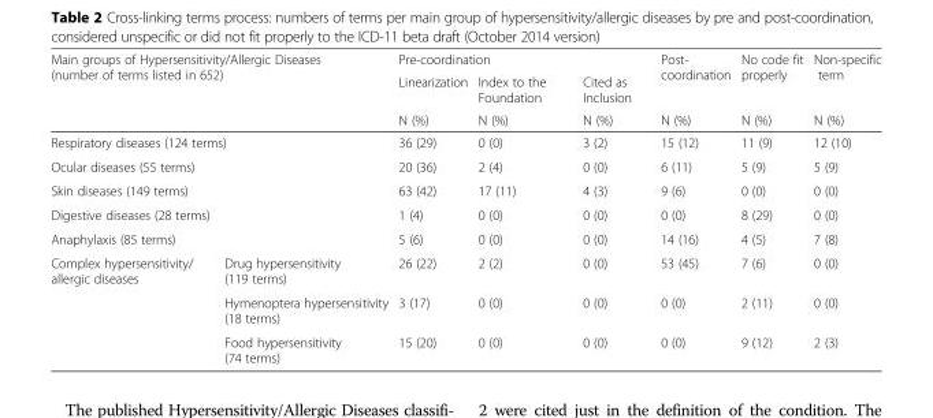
<table><thead><tr><td rowspan="3" colspan="2">Main groups of Hypersensitivity/Allergic Diseases (number of terms listed in 652)</td><td colspan="3">Pre-coordination</td><td rowspan="3">Post- coordination N (%)</td><td rowspan="3">No code fit properly N (%)</td><td rowspan="3">Non-specific term N (%)</td></tr><tr><td rowspan="2">Linearization N (%)</td><td rowspan="2">Index to the Foundation N (%)</td><td rowspan="2">Cited as Inclusion N (%)</td></tr><tr></tr></thead><tbody><tr><td colspan="2">Respiratory diseases (124 terms)</td><td>36 (29)</td><td>0 (0)</td><td>3 (2)</td><td>15 (12)</td><td>11 (9)</td><td>12 (10)</td></tr><tr><td colspan="2">Ocular diseases (55 terms)</td><td>20 (36)</td><td>2 (4)</td><td>0 (0)</td><td>6 (11)</td><td>5 (9)</td><td>5 (9)</td></tr><tr><td colspan="2">Skin diseases (149 terms)</td><td>63 (42)</td><td>17 (11)</td><td>4 (3)</td><td>9 (6)</td><td>0 (0)</td><td>0 (0)</td></tr><tr><td colspan="2">Digestive diseases (28 terms)</td><td>1 (4)</td><td>0 (0)</td><td>0 (0)</td><td>0 (0)</td><td>8 (29)</td><td>0 (0)</td></tr><tr><td colspan="2">Anaphylaxis (85 terms)</td><td>5 (6)</td><td>0 (0)</td><td>0 (0)</td><td>14 (16)</td><td>4 (5)</td><td>7 (8)</td></tr><tr><td rowspan="3">Complex hypersensitivity/ allergic diseases</td><td>Drug hypersensitivity (119 terms)</td><td>26 (22)</td><td>2 (2)</td><td>0 (0)</td><td>53 (45)</td><td>7 (6)</td><td>0 (0)</td></tr><tr><td>Hymenoptera hypersensitivity (18 terms)</td><td>3 (17)</td><td>0 (0)</td><td>0 (0)</td><td>0 (0)</td><td>2 (11)</td><td>0 (0)</td></tr><tr><td>Food hypersensitivity (74 terms)</td><td>15 (20)</td><td>0 (0)</td><td>0 (0)</td><td>0 (0)</td><td>9 (12)</td><td>2 (3)</td></tr></tbody></table>